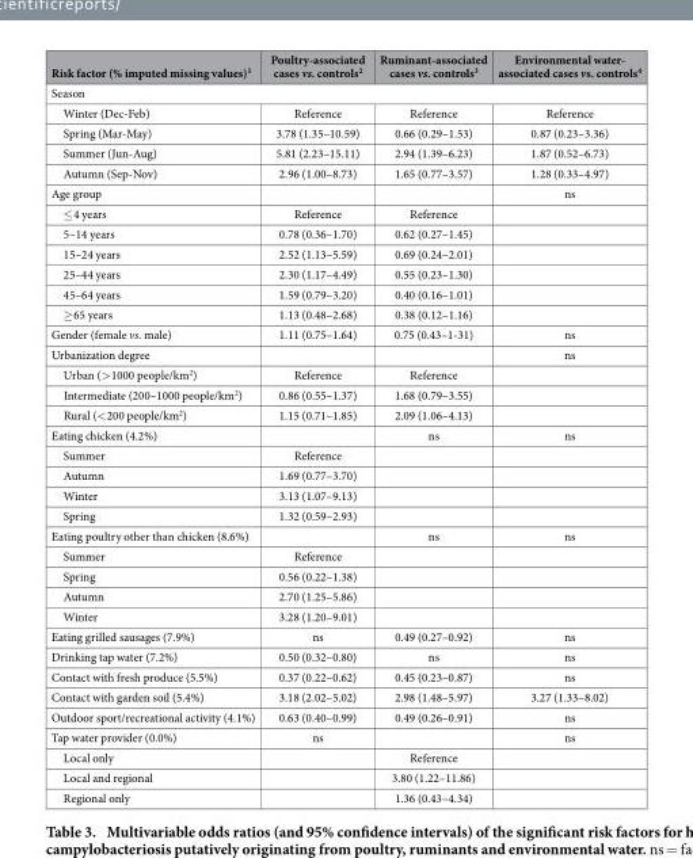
<table><thead><tr><td>Risk factor (% imputed missing values)<sup>1</sup></td><td>Poultry-associated cases vs. controls<sup>2</sup></td><td>Ruminant-associated cases vs. controls<sup>3</sup></td><td>Environmental water- associated cases vs. controls<sup>4</sup></td></tr></thead><tbody><tr><td colspan="4">Season</td></tr><tr><td>Winter (Dec-Feb)</td><td>Reference</td><td>Reference</td><td>Reference</td></tr><tr><td>Spring (Mar-May)</td><td>3.78 (1.35–10.59)</td><td>0.66 (0.29–1.53)</td><td>0.87 (0.23–3.36)</td></tr><tr><td>Summer (Jun-Aug)</td><td>5.81 (2.23–15.11)</td><td>2.94 (1.39–6.23)</td><td>1.87 (0.52–6.73)</td></tr><tr><td>Autumn (Sep-Nov)</td><td>2.96 (1.00–8.73)</td><td>1.65 (0.77–3.57)</td><td>1.28 (0.33–4.97)</td></tr><tr><td>Age group</td><td></td><td></td><td>ns</td></tr><tr><td>≤ 4 years</td><td>Reference</td><td>Reference</td><td></td></tr><tr><td>5–14 years</td><td>0.78 (0.36–1.70)</td><td>0.62 (0.27–1.45)</td><td></td></tr><tr><td>15–24 years</td><td>2.52 (1.13–5.59)</td><td>0.69 (0.24–2.01)</td><td></td></tr><tr><td>25–44 years</td><td>2.30 (1.17–4.49)</td><td>0.55 (0.23–1.30)</td><td></td></tr><tr><td>45–64 years</td><td>1.59 (0.79–3.20)</td><td>0.40 (0.16–1.01)</td><td></td></tr><tr><td>≥ 65 years</td><td>1.13 (0.48–2.68)</td><td>0.38 (0.12–1.16)</td><td></td></tr><tr><td>Gender (female vs. male)</td><td>1.11 (0.75–1.64)</td><td>0.75 (0.43–1-31)</td><td>ns</td></tr><tr><td>Urbanization degree</td><td></td><td></td><td>ns</td></tr><tr><td>Urban (&gt; 1000 people/km<sup>2</sup>)</td><td>Reference</td><td>Reference</td><td></td></tr><tr><td>Intermediate (200–1000 people/km<sup>2</sup>)</td><td>0.86 (0.55–1.37)</td><td>1.68 (0.79–3.55)</td><td></td></tr><tr><td>Rural (&lt; 200 people/km<sup>2</sup>)</td><td>1.15 (0.71–1.85)</td><td>2.09 (1.06–4.13)</td><td></td></tr><tr><td>Eating chicken (4.2%)</td><td></td><td>ns</td><td>ns</td></tr><tr><td>Summer</td><td>Reference</td><td></td><td></td></tr><tr><td>Autumn</td><td>1.69 (0.77–3.70)</td><td></td><td></td></tr><tr><td>Winter</td><td>3.13 (1.07–9.13)</td><td></td><td></td></tr><tr><td>Spring</td><td>1.32 (0.59–2.93)</td><td></td><td></td></tr><tr><td>Eating poultry other than chicken (8.6%)</td><td></td><td>ns</td><td>ns</td></tr><tr><td>Summer</td><td>Reference</td><td></td><td></td></tr><tr><td>Spring</td><td>0.56 (0.22–1.38)</td><td></td><td></td></tr><tr><td>Autumn</td><td>2.70 (1.25–5.86)</td><td></td><td></td></tr><tr><td>Winter</td><td>3.28 (1.20–9.01)</td><td></td><td></td></tr><tr><td>Eating grilled sausages (7.9%)</td><td>ns</td><td>0.49 (0.27–0.92)</td><td>ns</td></tr><tr><td>Drinking tap water (7.2%)</td><td>0.50 (0.32–0.80)</td><td>ns</td><td>ns</td></tr><tr><td>Contact with fresh produce (5.5%)</td><td>0.37 (0.22–0.62)</td><td>0.45 (0.23–0.87)</td><td>ns</td></tr><tr><td>Contact with garden soil (5.4%)</td><td>3.18 (2.02–5.02)</td><td>2.98 (1.48–5.97)</td><td>3.27 (1.33–8.02)</td></tr><tr><td>Outdoor sport/recreational activity (4.1%)</td><td>0.63 (0.40–0.99)</td><td>0.49 (0.26–0.91)</td><td>ns</td></tr><tr><td>Tap water provider (0.0%)</td><td>ns</td><td></td><td>ns</td></tr><tr><td>Local only</td><td></td><td>Reference</td><td></td></tr><tr><td>Local and regional</td><td></td><td>3.80 (1.22–11.86)</td><td></td></tr><tr><td>Regional only</td><td></td><td>1.36 (0.43–4.34)</td><td></td></tr></tbody></table>